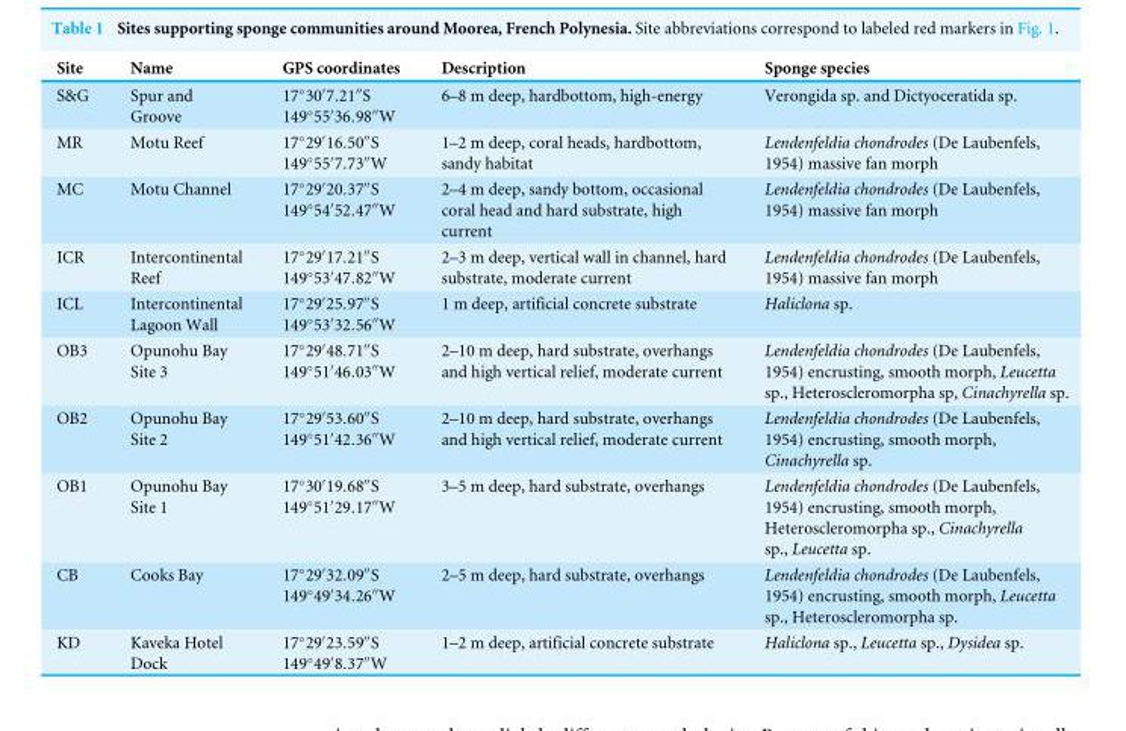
<table><thead><tr><td>Site</td><td>Name</td><td>GPS coordinates</td><td>Description</td><td>Sponge species</td></tr></thead><tbody><tr><td>S&amp;G</td><td>Spur and Groove</td><td>17◦30′7.21′′S 149◦55′36.98′′W</td><td>6–8 m deep, hardbottom, high-energy</td><td>Verongida sp. and Dictyoceratida sp.</td></tr><tr><td>MR</td><td>Motu Reef</td><td>17◦29′16.50′′S 149◦55′7.73′′W</td><td>1–2 m deep, coral heads, hardbottom, sandy habitat</td><td>Lendenfeldia chondrodes (De Laubenfels, 1954) massive fan morph</td></tr><tr><td>MC</td><td>Motu Channel</td><td>17◦29′20.37′′S 149◦54′52.47′′W</td><td>2–4 m deep, sandy bottom, occasional coral head and hard substrate, high current</td><td>Lendenfeldia chondrodes (De Laubenfels, 1954) massive fan morph</td></tr><tr><td>ICR</td><td>Intercontinental Reef</td><td>17◦29′17.21′′S 149◦53′47.82′′W</td><td>2–3 m deep, vertical wall in channel, hard substrate, moderate current</td><td>Lendenfeldia chondrodes (De Laubenfels, 1954) massive fan morph</td></tr><tr><td>ICL</td><td>Intercontinental Lagoon Wall</td><td>17◦29′25.97′′S 149◦53′32.56′′W</td><td>1 m deep, artificial concrete substrate</td><td>Haliclona sp.</td></tr><tr><td>OB3</td><td>Opunohu Bay Site 3</td><td>17◦29′48.71′′S 149◦51′46.03′′W</td><td>2–10 m deep, hard substrate, overhangs and high vertical relief, moderate current</td><td>Lendenfeldia chondrodes (De Laubenfels, 1954) encrusting, smooth morph, Leucetta sp., Heteroscleromorpha sp, Cinachyrella sp.</td></tr><tr><td>OB2</td><td>Opunohu Bay Site 2</td><td>17◦29′53.60′′S 149◦51′42.36′′W</td><td>2–10 m deep, hard substrate, overhangs and high vertical relief, moderate current</td><td>Lendenfeldia chondrodes (De Laubenfels, 1954) encrusting, smooth morph, Cinachyrella sp.</td></tr><tr><td>OB1</td><td>Opunohu Bay Site 1</td><td>17◦30′19.68′′S 149◦51′29.17′′W</td><td>3–5 m deep, hard substrate, overhangs</td><td>Lendenfeldia chondrodes (De Laubenfels, 1954) encrusting, smooth morph, Heteroscleromorpha sp., Cinachyrella sp., Leucetta sp.</td></tr><tr><td>CB</td><td>Cooks Bay</td><td>17◦29′32.09′′S 149◦49′34.26′′W</td><td>2–5 m deep, hard substrate, overhangs</td><td>Lendenfeldia chondrodes (De Laubenfels, 1954) encrusting, smooth morph, Leucetta sp., Heteroscleromorpha sp.</td></tr><tr><td>KD</td><td>Kaveka Hotel Dock</td><td>17◦29′23.59′′S 149◦49′8.37′′W</td><td>1–2 m deep, artificial concrete substrate</td><td>Haliclona sp., Leucetta sp., Dysidea sp.</td></tr></tbody></table>